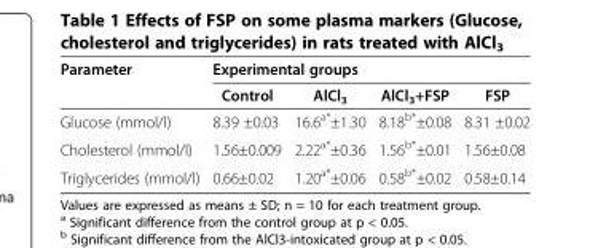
<table><thead><tr><td rowspan="2">Parameter</td><td colspan="4">Experimental groups</td></tr><tr><td>Control</td><td>AlCl<sub>3</sub></td><td>AlCl<sub>3</sub>+FSP</td><td>FSP</td></tr></thead><tbody><tr><td>Glucose (mmol/l)</td><td>8.39 ±0.03</td><td>16.6<sup>a*</sup>±1.30</td><td>8.18<sup>b*</sup>±0.08</td><td>8.31 ±0.02</td></tr><tr><td>Cholesterol (mmol/l)</td><td>1.56±0.009</td><td>2.22<sup>a*</sup>±0.36</td><td>1.56<sup>b*</sup>±0.01</td><td>1.56±0.08</td></tr><tr><td>Triglycerides (mmol/l)</td><td>0.66±0.02</td><td>1.20<sup>a*</sup>±0.06</td><td>0.58<sup>b*</sup>±0.02</td><td>0.58±0.14</td></tr></tbody></table>